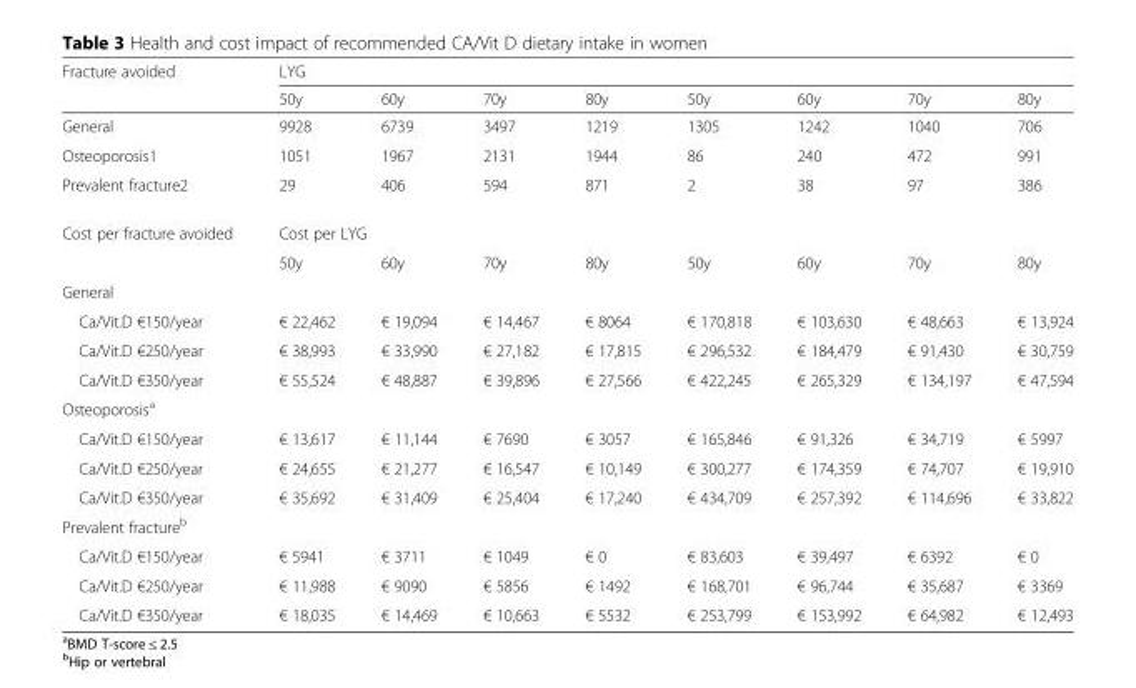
<table><thead><tr><td rowspan="2">Fracture avoided</td><td colspan="8">LYG</td></tr><tr><td>50y</td><td>60y</td><td>70y</td><td>80y</td><td>50y</td><td>60y</td><td>70y</td><td>80y</td></tr></thead><tbody><tr><td>General</td><td>9928</td><td>6739</td><td>3497</td><td>1219</td><td>1305</td><td>1242</td><td>1040</td><td>706</td></tr><tr><td>Osteoporosis1</td><td>1051</td><td>1967</td><td>2131</td><td>1944</td><td>86</td><td>240</td><td>472</td><td>991</td></tr><tr><td>Prevalent fracture2</td><td>29</td><td>406</td><td>594</td><td>871</td><td>2</td><td>38</td><td>97</td><td>386</td></tr><tr><td rowspan="2">Cost per fracture avoided</td><td colspan="8">Cost per LYG</td></tr><tr><td>50y</td><td>60y</td><td>70y</td><td>80y</td><td>50y</td><td>60y</td><td>70y</td><td>80y</td></tr><tr><td colspan="9">General</td></tr><tr><td>Ca/Vit.D €150/year</td><td>€ 22,462</td><td>€ 19,094</td><td>€ 14,467</td><td>€ 8064</td><td>€ 170,818</td><td>€ 103,630</td><td>€ 48,663</td><td>€ 13,924</td></tr><tr><td>Ca/Vit.D €250/year</td><td>€ 38,993</td><td>€ 33,990</td><td>€ 27,182</td><td>€ 17,815</td><td>€ 296,532</td><td>€ 184,479</td><td>€ 91,430</td><td>€ 30,759</td></tr><tr><td>Ca/Vit.D €350/year</td><td>€ 55,524</td><td>€ 48,887</td><td>€ 39,896</td><td>€ 27,566</td><td>€ 422,245</td><td>€ 265,329</td><td>€ 134,197</td><td>€ 47,594</td></tr><tr><td colspan="9">Osteoporosis<sup>a</sup></td></tr><tr><td>Ca/Vit.D €150/year</td><td>€ 13,617</td><td>€ 11,144</td><td>€ 7690</td><td>€ 3057</td><td>€ 165,846</td><td>€ 91,326</td><td>€ 34,719</td><td>€ 5997</td></tr><tr><td>Ca/Vit.D €250/year</td><td>€ 24,655</td><td>€ 21,277</td><td>€ 16,547</td><td>€ 10,149</td><td>€ 300,277</td><td>€ 174,359</td><td>€ 74,707</td><td>€ 19,910</td></tr><tr><td>Ca/Vit.D €350/year</td><td>€ 35,692</td><td>€ 31,409</td><td>€ 25,404</td><td>€ 17,240</td><td>€ 434,709</td><td>€ 257,392</td><td>€ 114,696</td><td>€ 33,822</td></tr><tr><td colspan="9">Prevalent fracture<sup>b</sup></td></tr><tr><td>Ca/Vit.D €150/year</td><td>€ 5941</td><td>€ 3711</td><td>€ 1049</td><td>€ 0</td><td>€ 83,603</td><td>€ 39,497</td><td>€ 6392</td><td>€ 0</td></tr><tr><td>Ca/Vit.D €250/year</td><td>€ 11,988</td><td>€ 9090</td><td>€ 5856</td><td>€ 1492</td><td>€ 168,701</td><td>€ 96,744</td><td>€ 35,687</td><td>€ 3369</td></tr><tr><td>Ca/Vit.D €350/year</td><td>€ 18,035</td><td>€ 14,469</td><td>€ 10,663</td><td>€ 5532</td><td>€ 253,799</td><td>€ 153,992</td><td>€ 64,982</td><td>€ 12,493</td></tr></tbody></table>